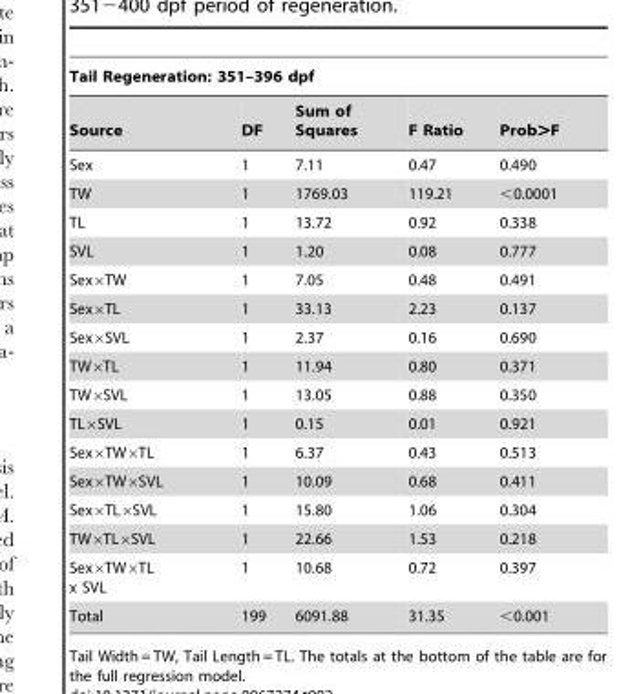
<table><thead><tr><td colspan="5">Tail Regeneration: 351–396 dpf</td></tr><tr><td>Source</td><td>DF</td><td>Sum of Squares</td><td>F Ratio</td><td>Prob&gt;F</td></tr></thead><tbody><tr><td>Sex</td><td>1</td><td>7.11</td><td>0.47</td><td>0.490</td></tr><tr><td>TW</td><td>1</td><td>1769.03</td><td>119.21</td><td>&lt;0.0001</td></tr><tr><td>TL</td><td>1</td><td>13.72</td><td>0.92</td><td>0.338</td></tr><tr><td>SVL</td><td>1</td><td>1.20</td><td>0.08</td><td>0.777</td></tr><tr><td>Sex×TW</td><td>1</td><td>7.05</td><td>0.48</td><td>0.491</td></tr><tr><td>Sex×TL</td><td>1</td><td>33.13</td><td>2.23</td><td>0.137</td></tr><tr><td>Sex×SVL</td><td>1</td><td>2.37</td><td>0.16</td><td>0.690</td></tr><tr><td>TW×TL</td><td>1</td><td>11.94</td><td>0.80</td><td>0.371</td></tr><tr><td>TW×SVL</td><td>1</td><td>13.05</td><td>0.88</td><td>0.350</td></tr><tr><td>TL×SVL</td><td>1</td><td>0.15</td><td>0.01</td><td>0.921</td></tr><tr><td>Sex×TW×TL</td><td>1</td><td>6.37</td><td>0.43</td><td>0.513</td></tr><tr><td>Sex×TW×SVL</td><td>1</td><td>10.09</td><td>0.68</td><td>0.411</td></tr><tr><td>Sex×TL×SVL</td><td>1</td><td>15.80</td><td>1.06</td><td>0.304</td></tr><tr><td>TW×TL×SVL</td><td>1</td><td>22.66</td><td>1.53</td><td>0.218</td></tr><tr><td>Sex×TW×TL x SVL</td><td>1</td><td>10.68</td><td>0.72</td><td>0.397</td></tr><tr><td>Total</td><td>199</td><td>6091.88</td><td>31.35</td><td>&lt;0.001</td></tr></tbody></table>